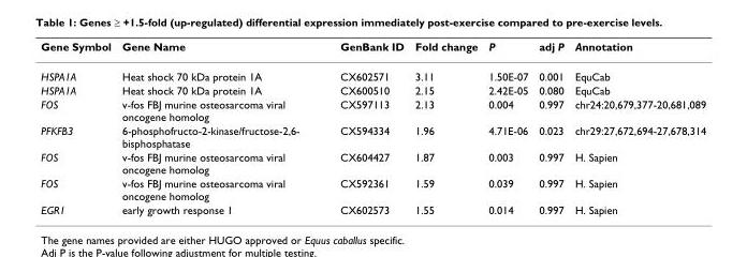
<table><thead><tr><td>Gene Symbol</td><td>Gene Name</td><td>GenBank ID</td><td>Fold change</td><td>P</td><td>adj P</td><td>Annotation</td></tr></thead><tbody><tr><td>HSPA1A</td><td>Heat shock 70 kDa protein 1A</td><td>CX602571</td><td>3.11</td><td>1.50E-07</td><td>0.001</td><td>EquCab</td></tr><tr><td>HSPA1A</td><td>Heat shock 70 kDa protein 1A</td><td>CX600510</td><td>2.15</td><td>2.42E-05</td><td>0.080</td><td>EquCab</td></tr><tr><td>FOS</td><td>v-fos FBJ murine osteosarcoma viral oncogene homolog</td><td>CX597113</td><td>2.13</td><td>0.004</td><td>0.997</td><td>chr24:20,679,377-20,681,089</td></tr><tr><td>PFKFB3</td><td>6-phosphofructo-2-kinase/fructose-2,6- bisphosphatase</td><td>CX594334</td><td>1.96</td><td>4.71E-06</td><td>0.023</td><td>chr29:27,672,694-27,678,314</td></tr><tr><td>FOS</td><td>v-fos FBJ murine osteosarcoma viral oncogene homolog</td><td>CX604427</td><td>1.87</td><td>0.003</td><td>0.997</td><td>H. Sapien</td></tr><tr><td>FOS</td><td>v-fos FBJ murine osteosarcoma viral oncogene homolog</td><td>CX592361</td><td>1.59</td><td>0.039</td><td>0.997</td><td>H. Sapien</td></tr><tr><td>EGR1</td><td>early growth response 1</td><td>CX602573</td><td>1.55</td><td>0.014</td><td>0.997</td><td>H. Sapien</td></tr></tbody></table>